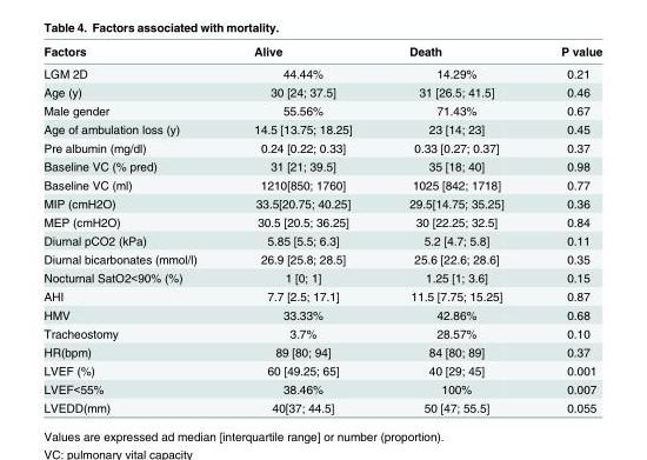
<table><thead><tr><td>Factors</td><td>Alive</td><td>Death</td><td>P value</td></tr></thead><tbody><tr><td>LGM 2D</td><td>44.44%</td><td>14.29%</td><td>0.21</td></tr><tr><td>Age (y)</td><td>30 [24; 37.5]</td><td>31 [26.5; 41.5]</td><td>0.46</td></tr><tr><td>Male gender</td><td>55.56%</td><td>71.43%</td><td>0.67</td></tr><tr><td>Age of ambulation loss (y)</td><td>14.5 [13.75; 18.25]</td><td>23 [14; 23]</td><td>0.45</td></tr><tr><td>Pre albumin (mg/dl)</td><td>0.24 [0.22; 0.33]</td><td>0.33 [0.27; 0.37]</td><td>0.37</td></tr><tr><td>Baseline VC (% pred)</td><td>31 [21; 39.5]</td><td>35 [18; 40]</td><td>0.98</td></tr><tr><td>Baseline VC (ml)</td><td>1210[850; 1760]</td><td>1025 [842; 1718]</td><td>0.77</td></tr><tr><td>MIP (cmH2O)</td><td>33.5[20.75; 40.25]</td><td>29.5[14.75; 35.25]</td><td>0.36</td></tr><tr><td>MEP (cmH2O)</td><td>30.5 [20.5; 36.25]</td><td>30 [22.25; 32.5]</td><td>0.84</td></tr><tr><td>Diurnal pCO2 (kPa)</td><td>5.85 [5.5; 6.3]</td><td>5.2 [4.7; 5.8]</td><td>0.11</td></tr><tr><td>Diurnal bicarbonates (mmol/l)</td><td>26.9 [25.8; 28.5]</td><td>25.6 [22.6; 28.6]</td><td>0.35</td></tr><tr><td>Nocturnal SatO2&lt;90% (%)</td><td>1 [0; 1]</td><td>1.25 [1; 3.6]</td><td>0.15</td></tr><tr><td>AHI</td><td>7.7 [2.5; 17.1]</td><td>11.5 [7.75; 15.25]</td><td>0.87</td></tr><tr><td>HMV</td><td>33.33%</td><td>42.86%</td><td>0.68</td></tr><tr><td>Tracheostomy</td><td>3.7%</td><td>28.57%</td><td>0.10</td></tr><tr><td>HR(bpm)</td><td>89 [80; 94]</td><td>84 [80; 89]</td><td>0.37</td></tr><tr><td>LVEF (%)</td><td>60 [49.25; 65]</td><td>40 [29; 45]</td><td>0.001</td></tr><tr><td>LVEF&lt;55%</td><td>38.46%</td><td>100%</td><td>0.007</td></tr><tr><td>LVEDD(mm)</td><td>40[37; 44.5]</td><td>50 [47; 55.5]</td><td>0.055</td></tr></tbody></table>